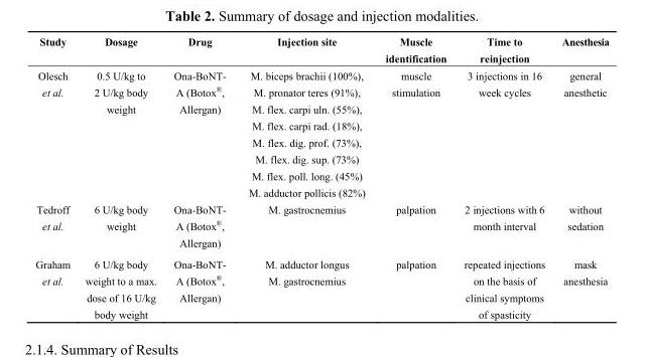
<table><thead><tr><td>Study</td><td>Dosage</td><td>Drug</td><td>Injection site</td><td>Muscle identification</td><td>Time to reinjection</td><td>Anesthesia</td></tr></thead><tbody><tr><td>Olesch et al.</td><td>0.5 U/kg to 2 U/kg body weight</td><td>Ona-BoNT- A (Botox<sup>®</sup>, Allergan)</td><td>M. biceps brachii (100%), M. pronator teres (91%), M. flex. carpi uln. (55%), M. flex. carpi rad. (18%), M. flex. dig. prof. (73%), M. flex. dig. sup. (73%) M. flex. poll. long. (45%) M. adductor pollicis (82%)</td><td>muscle stimulation</td><td>3 injections in 16 week cycles</td><td>general anesthetic</td></tr><tr><td>Tedroff et al.</td><td>6 U/kg body weight</td><td>Ona-BoNT- A (Botox<sup>®</sup>, Allergan)</td><td>M. gastrocnemius</td><td>palpation</td><td>2 injections with 6 month interval</td><td>without sedation</td></tr><tr><td>Graham et al.</td><td>6 U/kg body weight to a max. dose of 16 U/kg body weight</td><td>Ona-BoNT- A (Botox<sup>®</sup>, Allergan)</td><td>M. adductor longus M. gastrocnemius</td><td>palpation</td><td>repeated injections on the basis of clinical symptoms of spasticity</td><td>mask anesthesia</td></tr></tbody></table>